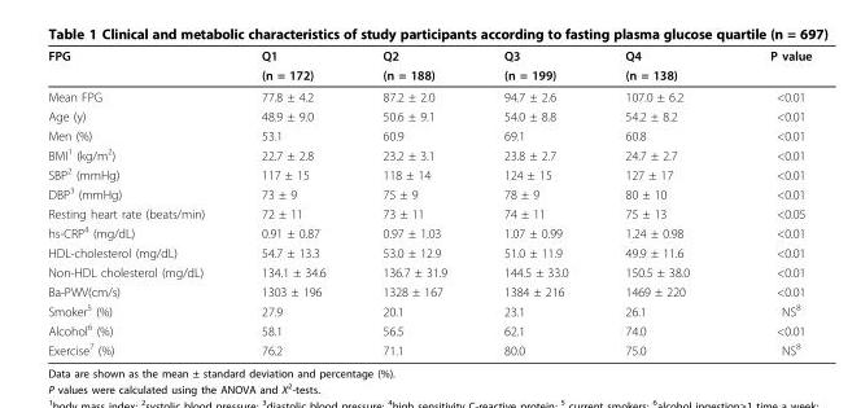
<table><thead><tr><td rowspan="2">FPG</td><td rowspan="2">Q1 (n = 172)</td><td rowspan="2">Q2 (n = 188)</td><td rowspan="2">Q3 (n = 199)</td><td rowspan="2">Q4 (n = 138)</td><td rowspan="2">P value</td></tr><tr></tr></thead><tbody><tr><td>Mean FPG</td><td>77.8 ± 4.2</td><td>87.2 ± 2.0</td><td>94.7 ± 2.6</td><td>107.0 ± 6.2</td><td>&lt;0.01</td></tr><tr><td>Age (y)</td><td>48.9 ± 9.0</td><td>50.6 ± 9.1</td><td>54.0 ± 8.8</td><td>54.2 ± 8.2</td><td>&lt;0.01</td></tr><tr><td>Men (%)</td><td>53.1</td><td>60.9</td><td>69.1</td><td>60.8</td><td>&lt;0.01</td></tr><tr><td>BMI<sup>1</sup> (kg/m<sup>2</sup>)</td><td>22.7 ± 2.8</td><td>23.2 ± 3.1</td><td>23.8 ± 2.7</td><td>24.7 ± 2.7</td><td>&lt;0.01</td></tr><tr><td>SBP<sup>2</sup> (mmHg)</td><td>117 ± 15</td><td>118 ± 14</td><td>124 ± 15</td><td>127 ± 17</td><td>&lt;0.01</td></tr><tr><td>DBP<sup>3</sup> (mmHg)</td><td>73 ± 9</td><td>75 ± 9</td><td>78 ± 9</td><td>80 ± 10</td><td>&lt;0.01</td></tr><tr><td>Resting heart rate (beats/min)</td><td>72 ± 11</td><td>73 ± 11</td><td>74 ± 11</td><td>75 ± 13</td><td>&lt;0.05</td></tr><tr><td>hs-CRP<sup>4</sup> (mg/dL)</td><td>0.91 ± 0.87</td><td>0.97 ± 1.03</td><td>1.07 ± 0.99</td><td>1.24 ± 0.98</td><td>&lt;0.01</td></tr><tr><td>HDL-cholesterol (mg/dL)</td><td>54.7 ± 13.3</td><td>53.0 ± 12.9</td><td>51.0 ± 11.9</td><td>49.9 ± 11.6</td><td>&lt;0.01</td></tr><tr><td>Non-HDL cholesterol (mg/dL)</td><td>134.1 ± 34.6</td><td>136.7 ± 31.9</td><td>144.5 ± 33.0</td><td>150.5 ± 38.0</td><td>&lt;0.01</td></tr><tr><td>Ba-PWV(cm/s)</td><td>1303 ± 196</td><td>1328 ± 167</td><td>1384 ± 216</td><td>1469 ± 220</td><td>&lt;0.01</td></tr><tr><td>Smoker<sup>5</sup> (%)</td><td>27.9</td><td>20.1</td><td>23.1</td><td>26.1</td><td>NS<sup>8</sup></td></tr><tr><td>Alcohol<sup>6</sup> (%)</td><td>58.1</td><td>56.5</td><td>62.1</td><td>74.0</td><td>&lt;0.01</td></tr><tr><td>Exercise<sup>7</sup> (%)</td><td>76.2</td><td>71.1</td><td>80.0</td><td>75.0</td><td>NS<sup>8</sup></td></tr></tbody></table>